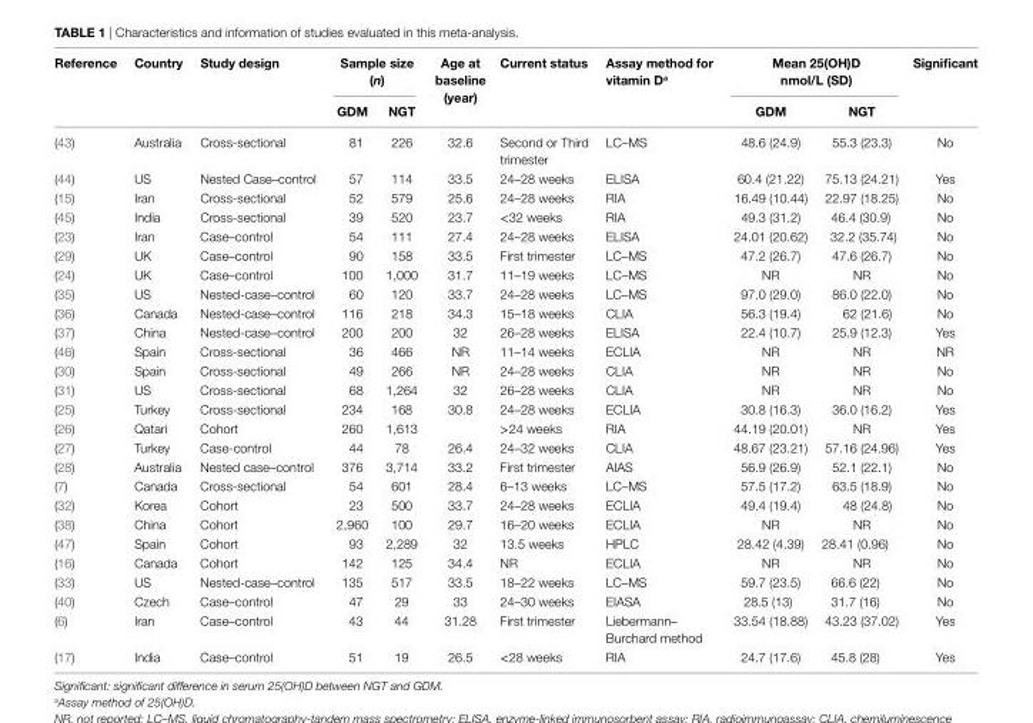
<table><thead><tr><td rowspan="2">Reference</td><td rowspan="2">country</td><td rowspan="2">Study design</td><td colspan="2">Sample size (n)</td><td rowspan="2">age at baseline (year)</td><td rowspan="2">current status</td><td rowspan="2">assay method for vitamin D<sup>a</sup></td><td colspan="2">mean 25(OH)D nmol/L (SD)</td><td rowspan="2">Significant</td></tr><tr><td>GDm</td><td>NGt</td><td>GDm</td><td>NGt</td></tr></thead><tbody><tr><td>(43)</td><td>Australia</td><td>Cross-sectional</td><td>81</td><td>226</td><td>32.6</td><td>Second or Third trimester</td><td>LC–MS</td><td>48.6 (24.9)</td><td>55.3 (23.3)</td><td>No</td></tr><tr><td>(44)</td><td>US</td><td>Nested Case–control</td><td>57</td><td>114</td><td>33.5</td><td>24–28 weeks</td><td>ELISA</td><td>60.4 (21.22)</td><td>75.13 (24.21)</td><td>Yes</td></tr><tr><td>(15)</td><td>Iran</td><td>Cross-sectional</td><td>52</td><td>579</td><td>25.6</td><td>24–28 weeks</td><td>RIA</td><td>16.49 (10.44)</td><td>22.97 (18.25)</td><td>No</td></tr><tr><td>(45)</td><td>India</td><td>Cross-sectional</td><td>39</td><td>520</td><td>23.7</td><td>&lt;32 weeks</td><td>RIA</td><td>49.3 (31.2)</td><td>46.4 (30.9)</td><td>No</td></tr><tr><td>(23)</td><td>Iran</td><td>Case–control</td><td>54</td><td>111</td><td>27.4</td><td>24–28 weeks</td><td>ELISA</td><td>24.01 (20.62)</td><td>32.2 (35.74)</td><td>No</td></tr><tr><td>(29)</td><td>UK</td><td>Case–control</td><td>90</td><td>158</td><td>33.5</td><td>First trimester</td><td>LC–MS</td><td>47.2 (26.7)</td><td>47.6 (26.7)</td><td>No</td></tr><tr><td>(24)</td><td>UK</td><td>Case–control</td><td>100</td><td>1,000</td><td>31.7</td><td>11–19 weeks</td><td>LC–MS</td><td>NR</td><td>NR</td><td>No</td></tr><tr><td>(35)</td><td>US</td><td>Nested-case–control</td><td>60</td><td>120</td><td>33.7</td><td>24–28 weeks</td><td>LC–MS</td><td>97.0 (29.0)</td><td>86.0 (22.0)</td><td>No</td></tr><tr><td>(36)</td><td>Canada</td><td>Nested-case–control</td><td>116</td><td>218</td><td>34.3</td><td>15–18 weeks</td><td>CLIA</td><td>56.3 (19.4)</td><td>62 (21.6)</td><td>No</td></tr><tr><td>(37)</td><td>China</td><td>Nested-case–control</td><td>200</td><td>200</td><td>32</td><td>26–28 weeks</td><td>ELISA</td><td>22.4 (10.7)</td><td>25.9 (12.3)</td><td>Yes</td></tr><tr><td>(46)</td><td>Spain</td><td>Cross-sectional</td><td>36</td><td>466</td><td>NR</td><td>11–14 weeks</td><td>ECLIA</td><td>NR</td><td>NR</td><td>NR</td></tr><tr><td>(30)</td><td>Spain</td><td>Cross-sectional</td><td>49</td><td>266</td><td>NR</td><td>24–28 weeks</td><td>CLIA</td><td>NR</td><td>NR</td><td>No</td></tr><tr><td>(31)</td><td>US</td><td>Cross-sectional</td><td>68</td><td>1,264</td><td>32</td><td>26–28 weeks</td><td>CLIA</td><td>NR</td><td>NR</td><td>No</td></tr><tr><td>(25)</td><td>Turkey</td><td>Cross-sectional</td><td>234</td><td>168</td><td>30.8</td><td>24–28 weeks</td><td>ECLIA</td><td>30.8 (16.3)</td><td>36.0 (16.2)</td><td>Yes</td></tr><tr><td>(26)</td><td>Qatari</td><td>Cohort</td><td>260</td><td>1,613</td><td></td><td>&gt;24 weeks</td><td>RIA</td><td>44.19 (20.01)</td><td>NR</td><td>Yes</td></tr><tr><td>(27)</td><td>Turkey</td><td>Case-control</td><td>44</td><td>78</td><td>26.4</td><td>24–32 weeks</td><td>CLIA</td><td>48.67 (23.21)</td><td>57.16 (24.96)</td><td>Yes</td></tr><tr><td>(28)</td><td>Australia</td><td>Nested case–control</td><td>376</td><td>3,714</td><td>33.2</td><td>First trimester</td><td>AIAS</td><td>56.9 (26.9)</td><td>52.1 (22.1)</td><td>No</td></tr><tr><td>(7)</td><td>Canada</td><td>Cross-sectional</td><td>54</td><td>601</td><td>28.4</td><td>6–13 weeks</td><td>LC–MS</td><td>57.5 (17.2)</td><td>63.5 (18.9)</td><td>No</td></tr><tr><td>(32)</td><td>Korea</td><td>Cohort</td><td>23</td><td>500</td><td>33.7</td><td>24–28 weeks</td><td>ECLIA</td><td>49.4 (19.4)</td><td>48 (24.8)</td><td>No</td></tr><tr><td>(38)</td><td>China</td><td>Cohort</td><td>2,960</td><td>100</td><td>29.7</td><td>16–20 weeks</td><td>ECLIA</td><td>NR</td><td>NR</td><td>No</td></tr><tr><td>(47)</td><td>Spain</td><td>Cohort</td><td>93</td><td>2,289</td><td>32</td><td>13.5 weeks</td><td>HPLC</td><td>28.42 (4.39)</td><td>28.41 (0.96)</td><td>No</td></tr><tr><td>(16)</td><td>Canada</td><td>Cohort</td><td>142</td><td>125</td><td>34.4</td><td>NR</td><td>ECLIA</td><td>NR</td><td>NR</td><td>No</td></tr><tr><td>(33)</td><td>US</td><td>Nested-case–control</td><td>135</td><td>517</td><td>33.5</td><td>18–22 weeks</td><td>LC–MS</td><td>59.7 (23.5)</td><td>66.6 (22)</td><td>No</td></tr><tr><td>(40)</td><td>Czech</td><td>Case–control</td><td>47</td><td>29</td><td>33</td><td>24–30 weeks</td><td>EIASA</td><td>28.5 (13)</td><td>31.7 (16)</td><td>No</td></tr><tr><td>(6)</td><td>Iran</td><td>Case–control</td><td>43</td><td>44</td><td>31.28</td><td>First trimester</td><td>Liebermann– Burchard method</td><td>33.54 (18.88)</td><td>43.23 (37.02)</td><td>Yes</td></tr><tr><td>(17)</td><td>India</td><td>Case–control</td><td>51</td><td>19</td><td>26.5</td><td>&lt;28 weeks</td><td>RIA</td><td>24.7 (17.6)</td><td>45.8 (28)</td><td>Yes</td></tr></tbody></table>